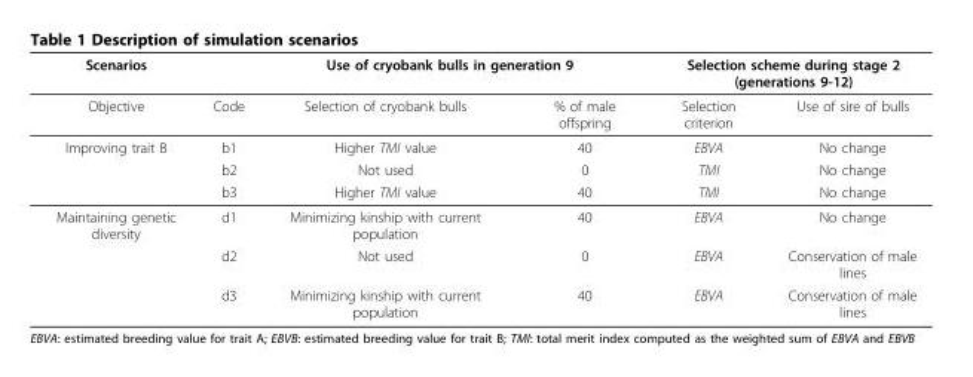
<table><thead><tr><td rowspan="2">Scenarios Objective</td><td rowspan="2">Code</td><td colspan="2">Use of cryobank bulls in generation 9</td><td colspan="2">Selection scheme during stage 2 (generations 9-12)</td></tr><tr><td>Selection of cryobank bulls</td><td>% of male offspring</td><td>Selection criterion</td><td>Use of sire of bulls</td></tr></thead><tbody><tr><td rowspan="3">Improving trait B</td><td>b1</td><td>Higher TMI value</td><td>40</td><td>EBVA</td><td>No change</td></tr><tr><td>b2</td><td>Not used</td><td>0</td><td>TMI</td><td>No change</td></tr><tr><td>b3</td><td>Higher TMI value</td><td>40</td><td>TMI</td><td>No change</td></tr><tr><td rowspan="3">Maintaining genetic diversity</td><td>d1</td><td>Minimizing kinship with current population</td><td>40</td><td>EBVA</td><td>No change</td></tr><tr><td>d2</td><td>Not used</td><td>0</td><td>EBVA</td><td>Conservation of male lines</td></tr><tr><td>d3</td><td>Minimizing kinship with current population</td><td>40</td><td>EBVA</td><td>Conservation of male lines</td></tr></tbody></table>